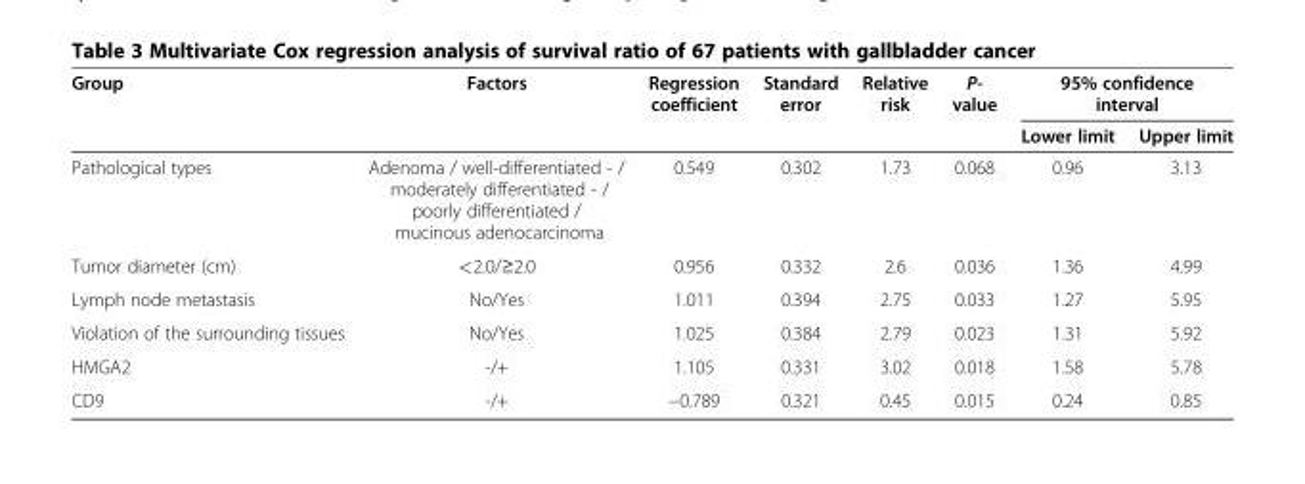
<table><thead><tr><td rowspan="2">Group</td><td rowspan="2">Factors</td><td rowspan="2">Regression coefficient</td><td rowspan="2">Standard error</td><td rowspan="2">Relative risk</td><td rowspan="2">P- value</td><td colspan="2">95% confidence interval</td></tr><tr><td>Lower limit</td><td>Upper limit</td></tr></thead><tbody><tr><td>Pathological types</td><td>Adenoma / well-differentiated - / moderately differentiated - / poorly differentiated / mucinous adenocarcinoma</td><td>0.549</td><td>0.302</td><td>1.73</td><td>0.068</td><td>0.96</td><td>3.13</td></tr><tr><td>Tumor diameter (cm)</td><td>&lt;2.0/≥2.0</td><td>0.956</td><td>0.332</td><td>2.6</td><td>0.036</td><td>1.36</td><td>4.99</td></tr><tr><td>Lymph node metastasis</td><td>No/Yes</td><td>1.011</td><td>0.394</td><td>2.75</td><td>0.033</td><td>1.27</td><td>5.95</td></tr><tr><td>Violation of the surrounding tissues</td><td>No/Yes</td><td>1.025</td><td>0.384</td><td>2.79</td><td>0.023</td><td>1.31</td><td>5.92</td></tr><tr><td>HMGA2</td><td>-/+</td><td>1.105</td><td>0.331</td><td>3.02</td><td>0.018</td><td>1.58</td><td>5.78</td></tr><tr><td>CD9</td><td>-/+</td><td>−0.789</td><td>0.321</td><td>0.45</td><td>0.015</td><td>0.24</td><td>0.85</td></tr></tbody></table>